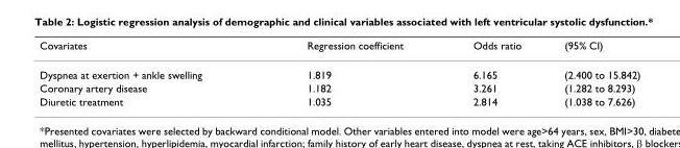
<table><thead><tr><td>Covariates</td><td>Regression coefficient</td><td>Odds ratio</td><td>(95% CI)</td></tr></thead><tbody><tr><td>Dyspnea at exertion + ankle swelling</td><td>1.819</td><td>6.165</td><td>(2.400 to 15.842)</td></tr><tr><td>Coronary artery disease</td><td>1.182</td><td>3.261</td><td>(1.282 to 8.293)</td></tr><tr><td>Diuretic treatment</td><td>1.035</td><td>2.814</td><td>(1.038 to 7.626)</td></tr></tbody></table>